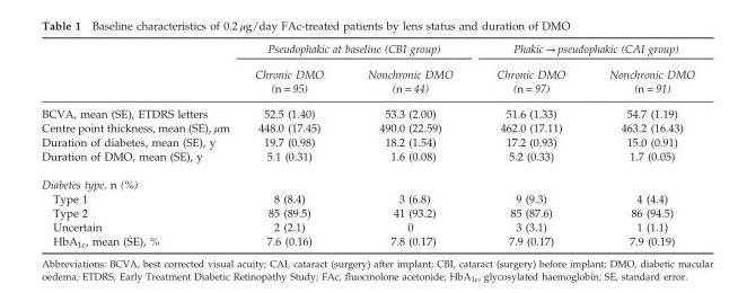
<table><thead><tr><td rowspan="2"></td><td colspan="2">Pseudophakic at baseline (CBI group)</td><td colspan="2">Phakic → pseudophakic (CAI group)</td></tr><tr><td>Chronic DMO (n = 95)</td><td>Nonchronic DMO (n = 44)</td><td>Chronic DMO (n = 97)</td><td>Nonchronic DMO (n = 91)</td></tr></thead><tbody><tr><td>BCVA, mean (SE), ETDRS letters</td><td>52.5 (1.40)</td><td>53.3 (2.00)</td><td>51.6 (1.33)</td><td>54.7 (1.19)</td></tr><tr><td>Centre point thickness, mean (SE), μm</td><td>448.0 (17.45)</td><td>490.0 (22.59)</td><td>462.0 (17.11)</td><td>463.2 (16.43)</td></tr><tr><td>Duration of diabetes, mean (SE), y</td><td>19.7 (0.98)</td><td>18.2 (1.54)</td><td>17.2 (0.93)</td><td>15.0 (0.91)</td></tr><tr><td>Duration of DMO, mean (SE), y</td><td>5.1 (0.31)</td><td>1.6 (0.08)</td><td>5.2 (0.33)</td><td>1.7 (0.05)</td></tr><tr><td colspan="5">Diabetes type, n (%)</td></tr><tr><td>Type 1</td><td>8 (8.4)</td><td>3 (6.8)</td><td>9 (9.3)</td><td>4 (4.4)</td></tr><tr><td>Type 2</td><td>85 (89.5)</td><td>41 (93.2)</td><td>85 (87.6)</td><td>86 (94.5)</td></tr><tr><td>Uncertain</td><td>2 (2.1)</td><td>0</td><td>3 (3.1)</td><td>1 (1.1)</td></tr><tr><td>HbA<sub>1c</sub>, mean (SE), %</td><td>7.6 (0.16)</td><td>7.8 (0.17)</td><td>7.9 (0.17)</td><td>7.9 (0.19)</td></tr></tbody></table>